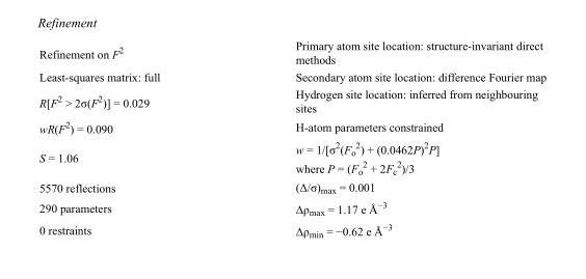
<table><tbody><tr><td>Refinement on F<sup>2</sup></td><td>Primary atom site location: structure-invariant direct methods</td></tr><tr><td>Least-squares matrix: full</td><td>Secondary atom site location: difference Fourier map</td></tr><tr><td>R[F<sup>2</sup> &gt; 2σ(F<sup>2</sup>)] = 0.029</td><td>Hydrogen site location: inferred from neighbouring sites</td></tr><tr><td>wR(F<sup>2</sup>) = 0.090</td><td>H-atom parameters constrained</td></tr><tr><td>S = 1.06</td><td>w = 1/[σ<sup>2</sup>(F<sub>o</sub> <sup>2</sup>) + (0.0462P)<sup>2</sup>P] where P = (F<sub>o</sub> <sup>2</sup> + 2F<sub>c</sub> <sup>2</sup>)/3</td></tr><tr><td>5570 reflections</td><td>(Δ/σ)<sub>max</sub> = 0.001</td></tr><tr><td>290 parameters</td><td>Δρ<sub>max</sub> = 1.17 e Å<sup>−3</sup></td></tr><tr><td>0 restraints</td><td>Δρ<sub>min</sub> = −0.62 e Å<sup>−3</sup></td></tr></tbody></table>